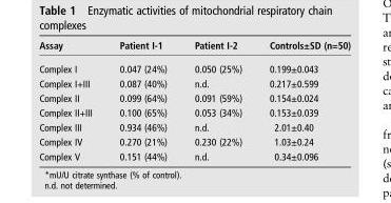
<table><thead><tr><td>Assay</td><td>Patient I-1</td><td>Patient I-2</td><td>Controls±SD (n=50)</td></tr></thead><tbody><tr><td>Complex I</td><td>0.047 (24%)</td><td>0.050 (25%)</td><td>0.199±0.043</td></tr><tr><td>Complex I+III</td><td>0.087 (40%)</td><td>n.d.</td><td>0.217±0.599</td></tr><tr><td>Complex II</td><td>0.099 (64%)</td><td>0.091 (59%)</td><td>0.154±0.024</td></tr><tr><td>Complex II+III</td><td>0.100 (65%)</td><td>0.053 (34%)</td><td>0.153±0.039</td></tr><tr><td>Complex III</td><td>0.934 (46%)</td><td>n.d.</td><td>2.01±0.40</td></tr><tr><td>Complex IV</td><td>0.270 (21%)</td><td>0.230 (22%)</td><td>1.03±0.24</td></tr><tr><td>Complex V</td><td>0.151 (44%)</td><td>n.d.</td><td>0.34±0.096</td></tr></tbody></table>